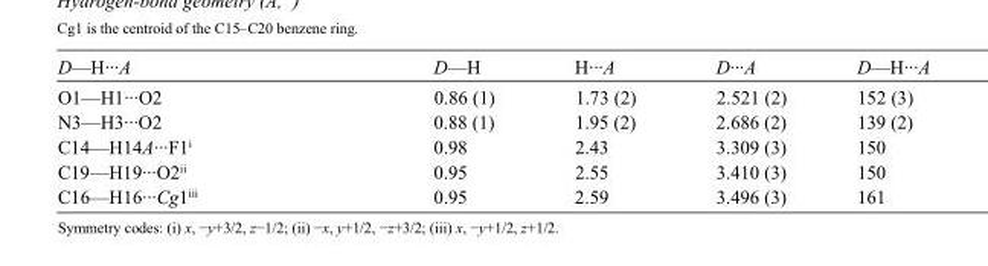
<table><tbody><tr><td>D—H···A</td><td>D—H</td><td>H···A</td><td>D···A</td><td>D—H···A</td></tr><tr><td>O1—H1···O2</td><td>0.86 (1)</td><td>1.73 (2)</td><td>2.521 (2)</td><td>152 (3)</td></tr><tr><td>N3—H3···O2</td><td>0.88 (1)</td><td>1.95 (2)</td><td>2.686 (2)</td><td>139 (2)</td></tr><tr><td>C14—H14A···F1<sup>i</sup></td><td>0.98</td><td>2.43</td><td>3.309 (3)</td><td>150</td></tr><tr><td>C19—H19···O2<sup>ii</sup></td><td>0.95</td><td>2.55</td><td>3.410 (3)</td><td>150</td></tr><tr><td>C16—H16···Cg1<sup>iii</sup></td><td>0.95</td><td>2.59</td><td>3.496 (3)</td><td>161</td></tr></tbody></table>